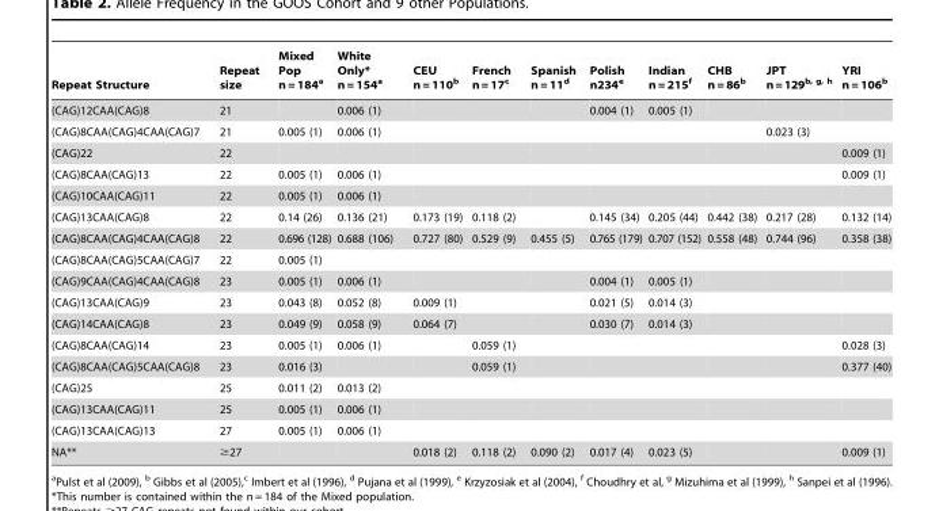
<table><thead><tr><td>Repeat Structure</td><td>Repeat size</td><td>Mixed Pop n = 184<sup>a</sup></td><td>White Only* n = 154<sup>a</sup></td><td>CEU n = 110<sup>b</sup></td><td>French n = 17<sup>c</sup></td><td>Spanish n = 11<sup>d</sup></td><td>Polish n234<sup>e</sup></td><td>Indian n = 215<sup>f</sup></td><td>CHB n = 86<sup>b</sup></td><td>JPT n=129<sup>b, g, h</sup></td><td>YRI n = 106<sup>b</sup></td></tr></thead><tbody><tr><td>(CAG)12CAA(CAG)8</td><td>21</td><td></td><td>0.006 (1)</td><td></td><td></td><td></td><td>0.004 (1)</td><td>0.005 (1)</td><td></td><td></td><td></td></tr><tr><td>(CAG)8CAA(CAG)4CAA(CAG)7</td><td>21</td><td>0.005 (1)</td><td>0.006 (1)</td><td></td><td></td><td></td><td></td><td></td><td></td><td>0.023 (3)</td><td></td></tr><tr><td>(CAG)22</td><td>22</td><td></td><td></td><td></td><td></td><td></td><td></td><td></td><td></td><td></td><td>0.009 (1)</td></tr><tr><td>(CAG)8CAA(CAG)13</td><td>22</td><td>0.005 (1)</td><td>0.006 (1)</td><td></td><td></td><td></td><td></td><td></td><td></td><td></td><td>0.009 (1)</td></tr><tr><td>(CAG)10CAA(CAG)11</td><td>22</td><td>0.005 (1)</td><td>0.006 (1)</td><td></td><td></td><td></td><td></td><td></td><td></td><td></td><td></td></tr><tr><td>(CAG)13CAA(CAG)8</td><td>22</td><td>0.14 (26)</td><td>0.136 (21)</td><td>0.173 (19)</td><td>0.118 (2)</td><td></td><td>0.145 (34)</td><td>0.205 (44)</td><td>0.442 (38)</td><td>0.217 (28)</td><td>0.132 (14)</td></tr><tr><td>(CAG)8CAA(CAG)4CAA(CAG)8</td><td>22</td><td>0.696 (128)</td><td>0.688 (106)</td><td>0.727 (80)</td><td>0.529 (9)</td><td>0.455 (5)</td><td>0.765 (179)</td><td>0.707 (152)</td><td>0.558 (48)</td><td>0.744 (96)</td><td>0.358 (38)</td></tr><tr><td>(CAG)8CAA(CAG)5CAA(CAG)7</td><td>22</td><td>0.005 (1)</td><td></td><td></td><td></td><td></td><td></td><td></td><td></td><td></td><td></td></tr><tr><td>(CAG)9CAA(CAG)4CAA(CAG)8</td><td>23</td><td>0.005 (1)</td><td>0.006 (1)</td><td></td><td></td><td></td><td>0.004 (1)</td><td>0.005 (1)</td><td></td><td></td><td></td></tr><tr><td>(CAG)13CAA(CAG)9</td><td>23</td><td>0.043 (8)</td><td>0.052 (8)</td><td>0.009 (1)</td><td></td><td></td><td>0.021 (5)</td><td>0.014 (3)</td><td></td><td></td><td></td></tr><tr><td>(CAG)14CAA(CAG)8</td><td>23</td><td>0.049 (9)</td><td>0.058 (9)</td><td>0.064 (7)</td><td></td><td></td><td>0.030 (7)</td><td>0.014 (3)</td><td></td><td></td><td></td></tr><tr><td>(CAG)8CAA(CAG)14</td><td>23</td><td>0.005 (1)</td><td>0.006 (1)</td><td></td><td>0.059 (1)</td><td></td><td></td><td></td><td></td><td></td><td>0.028 (3)</td></tr><tr><td>(CAG)8CAA(CAG)5CAA(CAG)8</td><td>23</td><td>0.016 (3)</td><td></td><td></td><td>0.059 (1)</td><td></td><td></td><td></td><td></td><td></td><td>0.377 (40)</td></tr><tr><td>(CAG)25</td><td>25</td><td>0.011 (2)</td><td>0.013 (2)</td><td></td><td></td><td></td><td></td><td></td><td></td><td></td><td></td></tr><tr><td>(CAG)13CAA(CAG)11</td><td>25</td><td>0.005 (1)</td><td>0.006 (1)</td><td></td><td></td><td></td><td></td><td></td><td></td><td></td><td></td></tr><tr><td>(CAG)13CAA(CAG)13</td><td>27</td><td>0.005 (1)</td><td>0.006 (1)</td><td></td><td></td><td></td><td></td><td></td><td></td><td></td><td></td></tr><tr><td>NA**</td><td>≥27</td><td></td><td></td><td>0.018 (2)</td><td>0.118 (2)</td><td>0.090 (2)</td><td>0.017 (4)</td><td>0.023 (5)</td><td></td><td></td><td>0.009 (1)</td></tr></tbody></table>